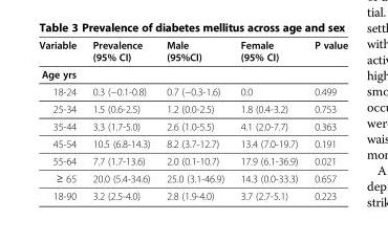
<table><thead><tr><td>Variable</td><td>Prevalence (95% CI)</td><td>Male (95%CI)</td><td>Female (95% CI)</td><td>P value</td></tr></thead><tbody><tr><td colspan="5">Age yrs</td></tr><tr><td>18-24</td><td>0.3 (−0.1-0.8)</td><td>0.7 (−0.3-1.6)</td><td>0.0</td><td>0.499</td></tr><tr><td>25-34</td><td>1.5 (0.6-2.5)</td><td>1.2 (0.0-2.5)</td><td>1.8 (0.4-3.2)</td><td>0.753</td></tr><tr><td>35-44</td><td>3.3 (1.7-5.0)</td><td>2.6 (1.0-5.5)</td><td>4.1 (2.0-7.7)</td><td>0.363</td></tr><tr><td>45-54</td><td>10.5 (6.8-14.3)</td><td>8.2 (3.7-12.7)</td><td>13.4 (7.0-19.7)</td><td>0.191</td></tr><tr><td>55-64</td><td>7.7 (1.7-13.6)</td><td>2.0 (0.1-10.7)</td><td>17.9 (6.1-36.9)</td><td>0.021</td></tr><tr><td>≥ 65</td><td>20.0 (5.4-34.6)</td><td>25.0 (3.1-46.9)</td><td>14.3 (0.0-33.3)</td><td>0.657</td></tr><tr><td>18-90</td><td>3.2 (2.5-4.0)</td><td>2.8 (1.9-4.0)</td><td>3.7 (2.7-5.1)</td><td>0.223</td></tr></tbody></table>